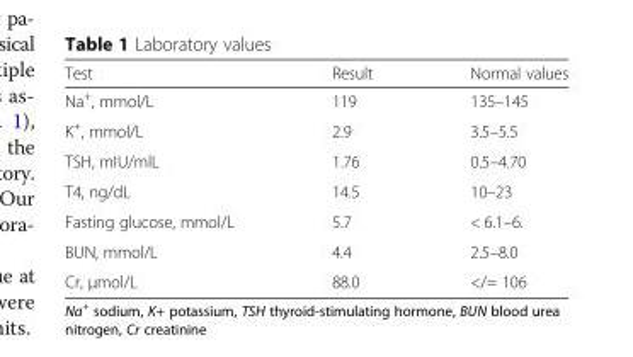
<table><thead><tr><td>Test</td><td>Result</td><td>Normal values</td></tr></thead><tbody><tr><td>Na<sup>+</sup>, mmol/L</td><td>119</td><td>135–145</td></tr><tr><td>K<sup>+</sup>, mmol/L</td><td>2.9</td><td>3.5–5.5</td></tr><tr><td>TSH, mIU/mlL</td><td>1.76</td><td>0.5–4.70</td></tr><tr><td>T4, ng/dL</td><td>14.5</td><td>10–23</td></tr><tr><td>Fasting glucose, mmol/L</td><td>5.7</td><td>&lt; 6.1–6.</td></tr><tr><td>BUN, mmol/L</td><td>4.4</td><td>2.5–8.0</td></tr><tr><td>Cr, μmol/L</td><td>88.0</td><td>&lt;/= 106</td></tr></tbody></table>